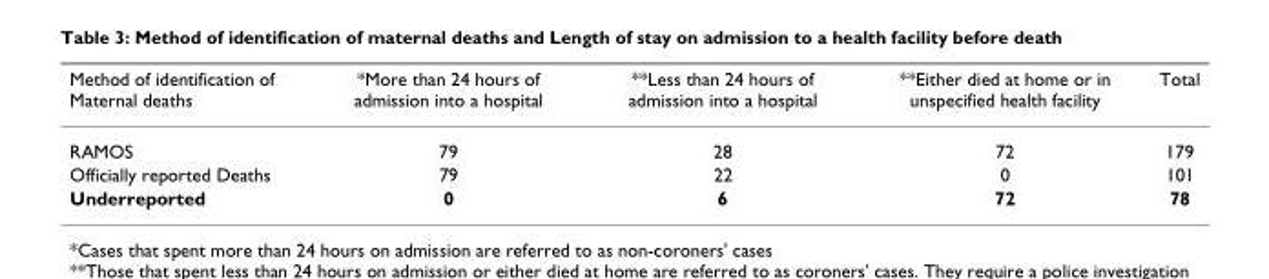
<table><thead><tr><td>Method of identification of Maternal deaths</td><td>*More than 24 hours of admission into a hospital</td><td>**Less than 24 hours of admission into a hospital</td><td>**Either died at home or in unspecified health facility</td><td>Total</td></tr></thead><tbody><tr><td>RAMOS</td><td>79</td><td>28</td><td>72</td><td>179</td></tr><tr><td>Officially reported Deaths</td><td>79</td><td>22</td><td>0</td><td>101</td></tr><tr><td>Underreported</td><td>0</td><td>6</td><td>72</td><td>78</td></tr></tbody></table>